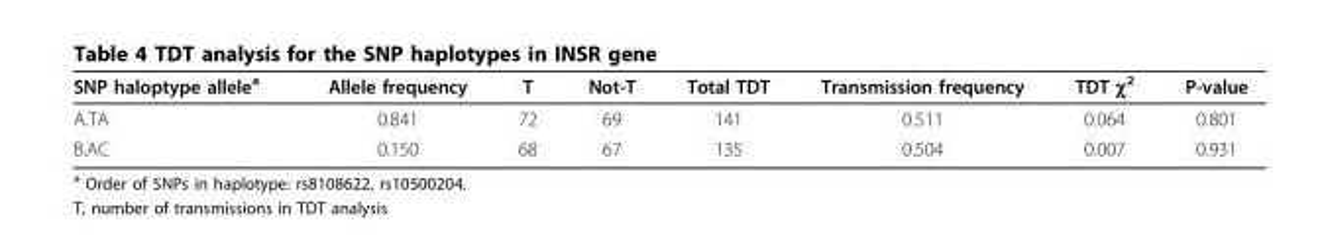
<table><thead><tr><td>SNP haloptype allele<sup>a</sup></td><td>Allele frequency</td><td>T</td><td>Not-T</td><td>Total TDT</td><td>Transmission frequency</td><td>TDT χ<sup>2</sup></td><td>P-value</td></tr></thead><tbody><tr><td>A.TA</td><td>0.841</td><td>72</td><td>69</td><td>141</td><td>0.511</td><td>0.064</td><td>0.801</td></tr><tr><td>B.AC</td><td>0.150</td><td>68</td><td>67</td><td>135</td><td>0.504</td><td>0.007</td><td>0.931</td></tr></tbody></table>